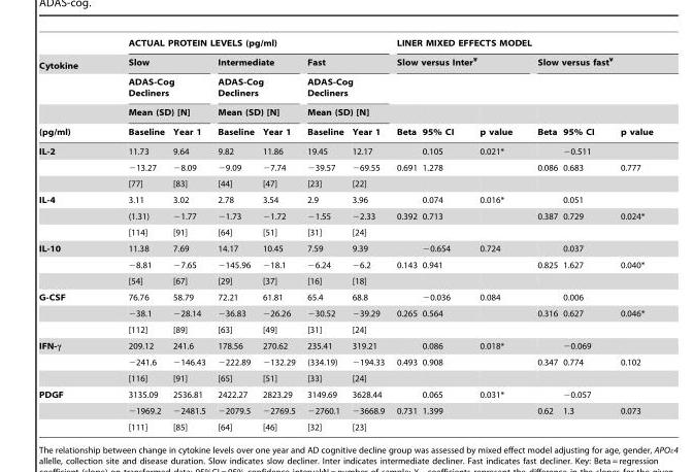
<table><thead><tr><td rowspan="5">Cytokine (pg/ml)</td><td colspan="6">ACTUAL PROTEIN LEVELS (pg/ml)</td><td colspan="6">LINER MIXED EFFECTS MODEL</td></tr><tr><td rowspan="3" colspan="2">Slow ADAS-Cog Decliners Mean (SD) [N]</td><td rowspan="3" colspan="2">Intermediate ADAS-Cog Decliners Mean (SD) [N]</td><td rowspan="3" colspan="2">Fast ADAS-Cog Decliners Mean (SD) [N]</td><td colspan="3">Slow versus Inter<sup>¥</sup></td><td colspan="3">Slow versus fast<sup>¥</sup></td></tr><tr><td rowspan="3">Beta</td><td rowspan="3">95% CI</td><td rowspan="3">p value</td><td rowspan="3">Beta</td><td rowspan="3">95% CI</td><td rowspan="3">p value</td></tr><tr></tr><tr><td>Baseline</td><td>Year 1</td><td>Baseline</td><td>Year 1</td><td>Baseline</td><td>Year 1</td></tr></thead><tbody><tr><td rowspan="3">IL-2</td><td>11.73</td><td>9.64</td><td>9.82</td><td>11.86</td><td>19.45</td><td>12.17</td><td></td><td>0.105</td><td>0.021*</td><td></td><td>−0.511</td><td></td></tr><tr><td>−13.27</td><td>−8.09</td><td>−9.09</td><td>−7.74</td><td>−39.57</td><td>−69.55</td><td>0.691</td><td>1.278</td><td></td><td>0.086</td><td>0.683</td><td>0.777</td></tr><tr><td>[77]</td><td>[83]</td><td>[44]</td><td>[47]</td><td>[23]</td><td>[22]</td><td></td><td></td><td></td><td></td><td></td><td></td></tr><tr><td rowspan="3">IL-4</td><td>3.11</td><td>3.02</td><td>2.78</td><td>3.54</td><td>2.9</td><td>3.96</td><td></td><td>0.074</td><td>0.016*</td><td></td><td>0.051</td><td></td></tr><tr><td>(1.31)</td><td>−1.77</td><td>−1.73</td><td>−1.72</td><td>−1.55</td><td>−2.33</td><td>0.392</td><td>0.713</td><td></td><td>0.387</td><td>0.729</td><td>0.024*</td></tr><tr><td>[114]</td><td>[91]</td><td>[64]</td><td>[51]</td><td>[31]</td><td>[24]</td><td></td><td></td><td></td><td></td><td></td><td></td></tr><tr><td rowspan="3">IL-10</td><td>11.38</td><td>7.69</td><td>14.17</td><td>10.45</td><td>7.59</td><td>9.39</td><td></td><td>−0.654</td><td>0.724</td><td></td><td>0.037</td><td></td></tr><tr><td>−8.81</td><td>−7.65</td><td>−145.96</td><td>−18.1</td><td>−6.24</td><td>−6.2</td><td>0.143</td><td>0.941</td><td></td><td>0.825</td><td>1.627</td><td>0.040*</td></tr><tr><td>[54]</td><td>[67]</td><td>[29]</td><td>[37]</td><td>[16]</td><td>[18]</td><td></td><td></td><td></td><td></td><td></td><td></td></tr><tr><td rowspan="3">G-CSF</td><td>76.76</td><td>58.79</td><td>72.21</td><td>61.81</td><td>65.4</td><td>68.8</td><td></td><td>−0.036</td><td>0.084</td><td></td><td>0.006</td><td></td></tr><tr><td>−38.1</td><td>−28.14</td><td>−36.83</td><td>−26.26</td><td>−30.52</td><td>−39.29</td><td>0.265</td><td>0.564</td><td></td><td>0.316</td><td>0.627</td><td>0.046*</td></tr><tr><td>[112]</td><td>[89]</td><td>[63]</td><td>[49]</td><td>[31]</td><td>[24]</td><td></td><td></td><td></td><td></td><td></td><td></td></tr><tr><td rowspan="3">IFN-γ</td><td>209.12</td><td>241.6</td><td>178.56</td><td>270.62</td><td>235.41</td><td>319.21</td><td></td><td>0.086</td><td>0.018*</td><td></td><td>−0.069</td><td></td></tr><tr><td>−241.6</td><td>−146.43</td><td>−222.89</td><td>−132.29</td><td>(334.19)</td><td>−194.33</td><td>0.493</td><td>0.908</td><td></td><td>0.347</td><td>0.774</td><td>0.102</td></tr><tr><td>[116]</td><td>[91]</td><td>[65]</td><td>[51]</td><td>[33]</td><td>[24]</td><td></td><td></td><td></td><td></td><td></td><td></td></tr><tr><td rowspan="3">PDGF</td><td>3135.09</td><td>2536.81</td><td>2422.27</td><td>2823.29</td><td>3149.69</td><td>3628.44</td><td></td><td>0.065</td><td>0.031*</td><td></td><td>−0.057</td><td></td></tr><tr><td>−1969.2</td><td>−2481.5</td><td>−2079.5</td><td>−2769.5</td><td>−2760.1</td><td>−3668.9</td><td>0.731</td><td>1.399</td><td></td><td>0.62</td><td>1.3</td><td>0.073</td></tr><tr><td>[111]</td><td>[85]</td><td>[64]</td><td>[46]</td><td>[32]</td><td>[23]</td><td></td><td></td><td></td><td></td><td></td><td></td></tr></tbody></table>